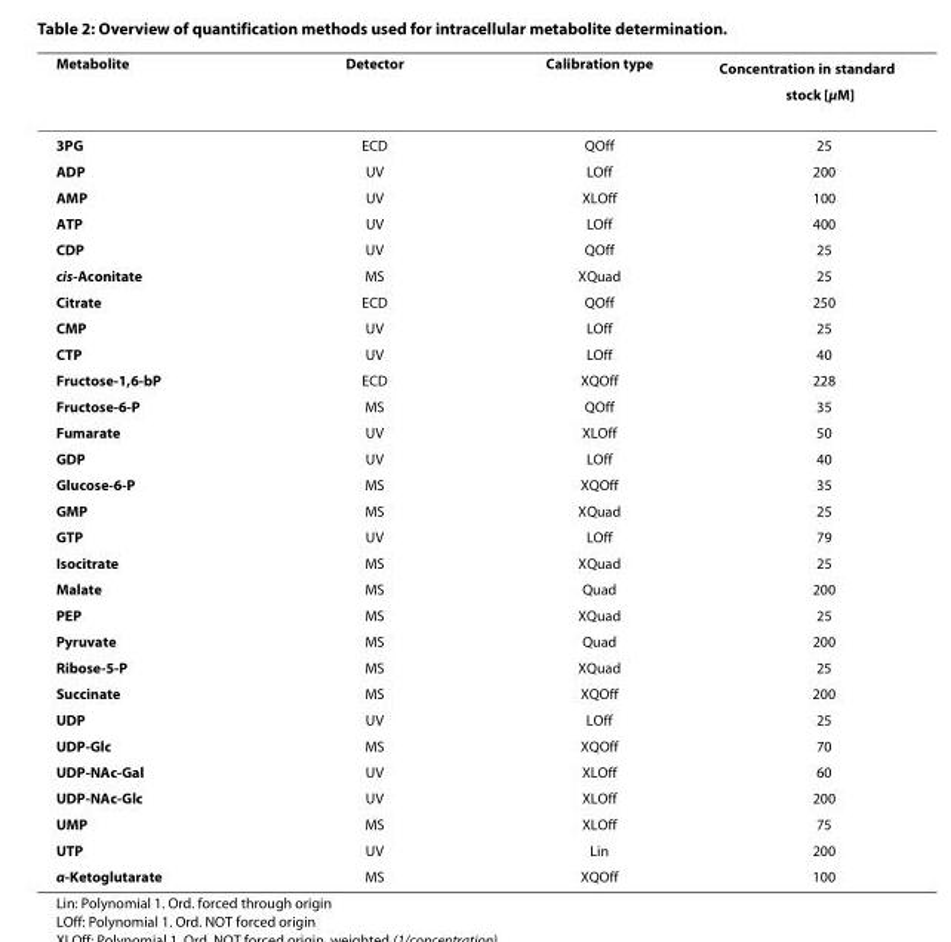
<table><thead><tr><td>Metabolite</td><td>Detector</td><td>Calibration type</td><td>Concentration in standard stock [μM]</td></tr></thead><tbody><tr><td>3PG</td><td>ECD</td><td>QOff</td><td>25</td></tr><tr><td>ADP</td><td>UV</td><td>LOff</td><td>200</td></tr><tr><td>AMP</td><td>UV</td><td>XLOff</td><td>100</td></tr><tr><td>ATP</td><td>UV</td><td>LOff</td><td>400</td></tr><tr><td>CDP</td><td>UV</td><td>QOff</td><td>25</td></tr><tr><td>cis-Aconitate</td><td>MS</td><td>XQuad</td><td>25</td></tr><tr><td>Citrate</td><td>ECD</td><td>QOff</td><td>250</td></tr><tr><td>CMP</td><td>UV</td><td>LOff</td><td>25</td></tr><tr><td>CTP</td><td>UV</td><td>LOff</td><td>40</td></tr><tr><td>Fructose-1,6-bP</td><td>ECD</td><td>XQOff</td><td>228</td></tr><tr><td>Fructose-6-P</td><td>MS</td><td>QOff</td><td>35</td></tr><tr><td>Fumarate</td><td>UV</td><td>XLOff</td><td>50</td></tr><tr><td>GDP</td><td>UV</td><td>LOff</td><td>40</td></tr><tr><td>Glucose-6-P</td><td>MS</td><td>XQOff</td><td>35</td></tr><tr><td>GMP</td><td>MS</td><td>XQuad</td><td>25</td></tr><tr><td>GTP</td><td>UV</td><td>LOff</td><td>79</td></tr><tr><td>Isocitrate</td><td>MS</td><td>XQuad</td><td>25</td></tr><tr><td>Malate</td><td>MS</td><td>Quad</td><td>200</td></tr><tr><td>PEP</td><td>MS</td><td>XQuad</td><td>25</td></tr><tr><td>Pyruvate</td><td>MS</td><td>Quad</td><td>200</td></tr><tr><td>Ribose-5-P</td><td>MS</td><td>XQuad</td><td>25</td></tr><tr><td>Succinate</td><td>MS</td><td>XQOff</td><td>200</td></tr><tr><td>UDP</td><td>UV</td><td>LOff</td><td>25</td></tr><tr><td>UDP-Glc</td><td>MS</td><td>XQOff</td><td>70</td></tr><tr><td>UDP-NAc-Gal</td><td>UV</td><td>XLOff</td><td>60</td></tr><tr><td>UDP-NAc-Glc</td><td>UV</td><td>XLOff</td><td>200</td></tr><tr><td>UMP</td><td>MS</td><td>XLOff</td><td>75</td></tr><tr><td>UTP</td><td>UV</td><td>Lin</td><td>200</td></tr><tr><td>α-Ketoglutarate</td><td>MS</td><td>XQOff</td><td>100</td></tr></tbody></table>